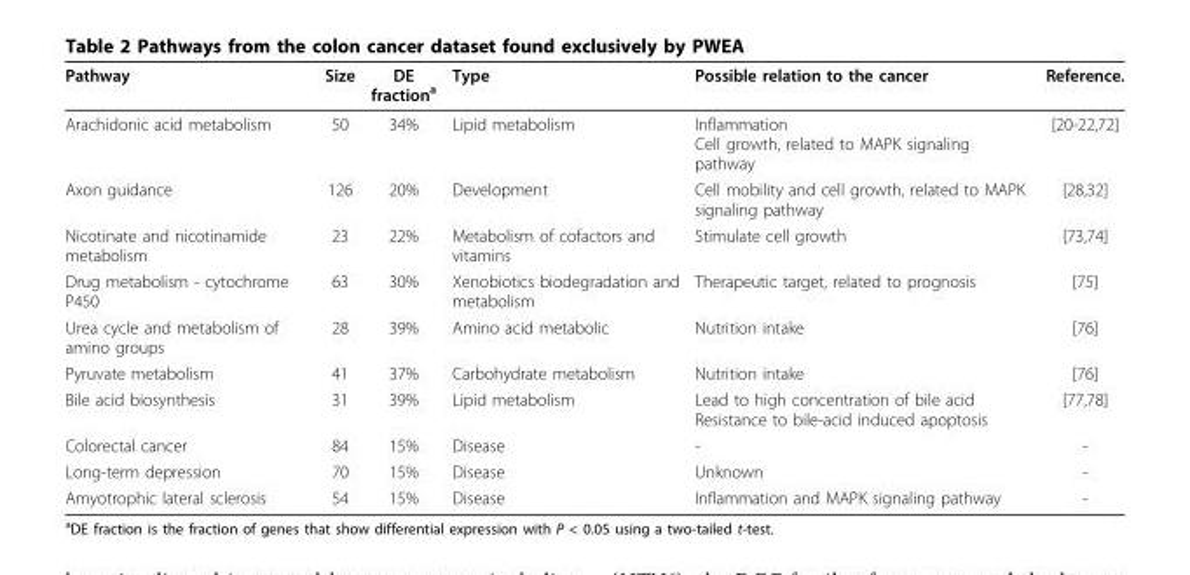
<table><thead><tr><td>Pathway</td><td>Size</td><td>DE fraction<sup>a</sup></td><td>Type</td><td>Possible relation to the cancer</td><td>Reference.</td></tr></thead><tbody><tr><td>Arachidonic acid metabolism</td><td>50</td><td>34%</td><td>Lipid metabolism</td><td>Inflammation Cell growth, related to MAPK signaling pathway</td><td>[20-22,72]</td></tr><tr><td>Axon guidance</td><td>126</td><td>20%</td><td>Development</td><td>Cell mobility and cell growth, related to MAPK signaling pathway</td><td>[28,32]</td></tr><tr><td>Nicotinate and nicotinamide metabolism</td><td>23</td><td>22%</td><td>Metabolism of cofactors and vitamins</td><td>Stimulate cell growth</td><td>[73,74]</td></tr><tr><td>Drug metabolism - cytochrome P450</td><td>63</td><td>30%</td><td>Xenobiotics biodegradation and metabolism</td><td>Therapeutic target, related to prognosis</td><td>[75]</td></tr><tr><td>Urea cycle and metabolism of amino groups</td><td>28</td><td>39%</td><td>Amino acid metabolic</td><td>Nutrition intake</td><td>[76]</td></tr><tr><td>Pyruvate metabolism</td><td>41</td><td>37%</td><td>Carbohydrate metabolism</td><td>Nutrition intake</td><td>[76]</td></tr><tr><td>Bile acid biosynthesis</td><td>31</td><td>39%</td><td>Lipid metabolism</td><td>Lead to high concentration of bile acid Resistance to bile-acid induced apoptosis</td><td>[77,78]</td></tr><tr><td>Colorectal cancer</td><td>84</td><td>15%</td><td>Disease</td><td>-</td><td>-</td></tr><tr><td>Long-term depression</td><td>70</td><td>15%</td><td>Disease</td><td>Unknown</td><td>-</td></tr><tr><td>Amyotrophic lateral sclerosis</td><td>54</td><td>15%</td><td>Disease</td><td>Inflammation and MAPK signaling pathway</td><td>-</td></tr></tbody></table>